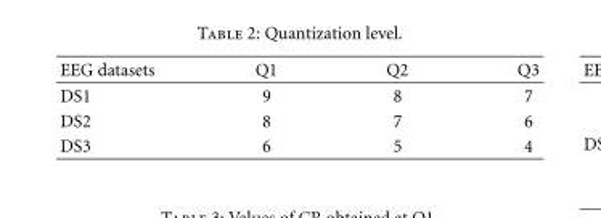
<table><thead><tr><td>EEG datasets</td><td>Q1</td><td>Q2</td><td>Q3</td></tr></thead><tbody><tr><td>DS1</td><td>9</td><td>8</td><td>7</td></tr><tr><td>DS2</td><td>8</td><td>7</td><td>6</td></tr><tr><td>DS3</td><td>6</td><td>5</td><td>4</td></tr></tbody></table>